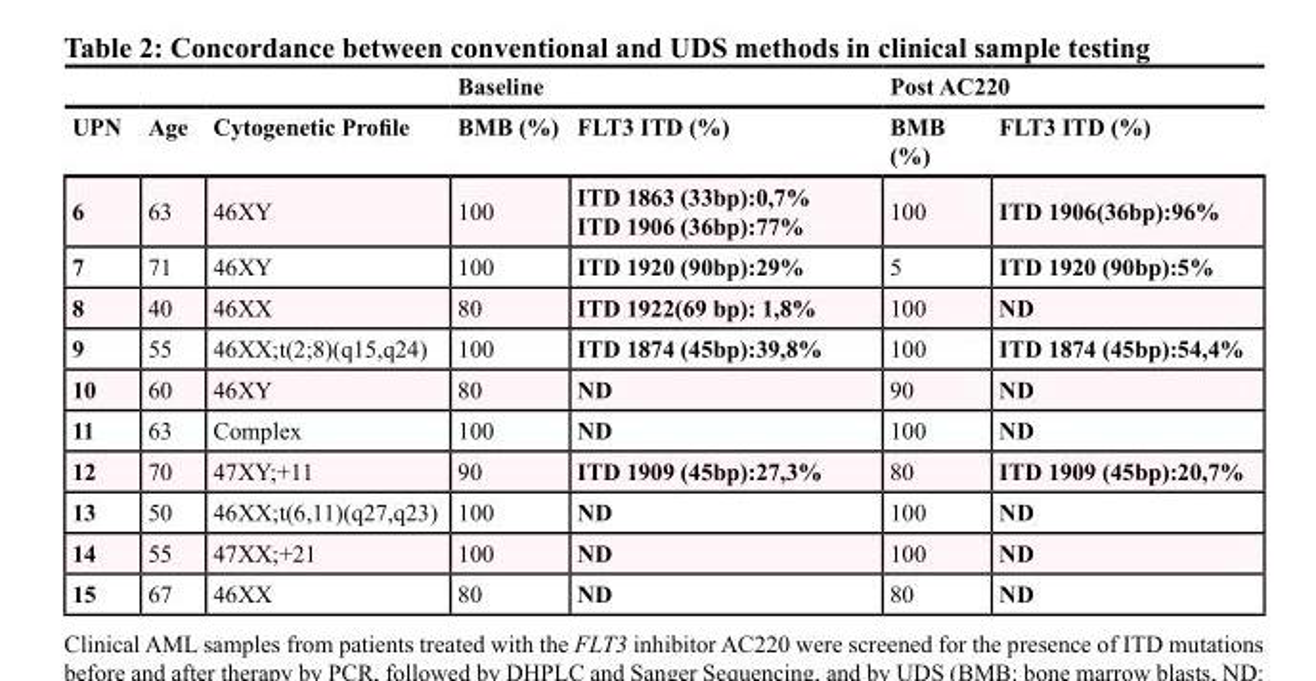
<table><thead><tr><td rowspan="2">UPN</td><td rowspan="2">Age</td><td rowspan="2">Cytogenetic Profile</td><td colspan="2">Baseline</td><td colspan="2">Post AC220</td></tr><tr><td>BMB (%)</td><td>FLT3 ITD (%)</td><td>BMB (%)</td><td>FLT3 ITD (%)</td></tr></thead><tbody><tr><td>6</td><td>63</td><td>46XY</td><td>100</td><td>ITD 1863 (33bp):0,7% ITD 1906 (36bp):77%</td><td>100</td><td>ITD 1906(36bp):96%</td></tr><tr><td>7</td><td>71</td><td>46XY</td><td>100</td><td>ITD 1920 (90bp):29%</td><td>5</td><td>ITD 1920 (90bp):5%</td></tr><tr><td>8</td><td>40</td><td>46XX</td><td>80</td><td>ITD 1922(69 bp): 1,8%</td><td>100</td><td>ND</td></tr><tr><td>9</td><td>55</td><td>46XX;t(2;8)(q15,q24)</td><td>100</td><td>ITD 1874 (45bp):39,8%</td><td>100</td><td>ITD 1874 (45bp):54,4%</td></tr><tr><td>10</td><td>60</td><td>46XY</td><td>80</td><td>ND</td><td>90</td><td>ND</td></tr><tr><td>11</td><td>63</td><td>Complex</td><td>100</td><td>ND</td><td>100</td><td>ND</td></tr><tr><td>12</td><td>70</td><td>47XY;+11</td><td>90</td><td>ITD 1909 (45bp):27,3%</td><td>80</td><td>ITD 1909 (45bp):20,7%</td></tr><tr><td>13</td><td>50</td><td>46XX;t(6,11)(q27,q23)</td><td>100</td><td>ND</td><td>100</td><td>ND</td></tr><tr><td>14</td><td>55</td><td>47XX;+21</td><td>100</td><td>ND</td><td>100</td><td>ND</td></tr><tr><td>15</td><td>67</td><td>46XX</td><td>80</td><td>ND</td><td>80</td><td>ND</td></tr></tbody></table>